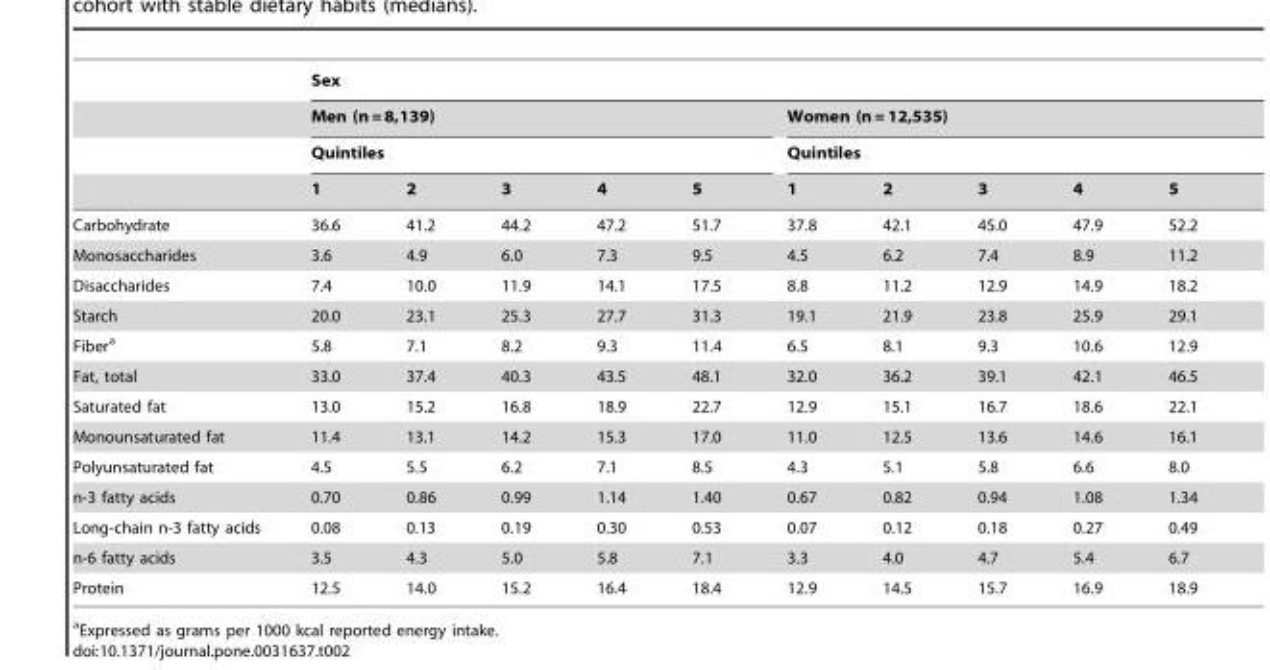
<table><thead><tr><td rowspan="4"></td><td colspan="10">Sex</td></tr><tr><td rowspan="2" colspan="5">Men (n = 8,139) Quintiles</td><td rowspan="2" colspan="5">Women (n = 12,535) Quintiles</td></tr><tr></tr><tr><td>1</td><td>2</td><td>3</td><td>4</td><td>5</td><td>1</td><td>2</td><td>3</td><td>4</td><td>5</td></tr></thead><tbody><tr><td>Carbohydrate</td><td>36.6</td><td>41.2</td><td>44.2</td><td>47.2</td><td>51.7</td><td>37.8</td><td>42.1</td><td>45.0</td><td>47.9</td><td>52.2</td></tr><tr><td>Monosaccharides</td><td>3.6</td><td>4.9</td><td>6.0</td><td>7.3</td><td>9.5</td><td>4.5</td><td>6.2</td><td>7.4</td><td>8.9</td><td>11.2</td></tr><tr><td>Disaccharides</td><td>7.4</td><td>10.0</td><td>11.9</td><td>14.1</td><td>17.5</td><td>8.8</td><td>11.2</td><td>12.9</td><td>14.9</td><td>18.2</td></tr><tr><td>Starch</td><td>20.0</td><td>23.1</td><td>25.3</td><td>27.7</td><td>31.3</td><td>19.1</td><td>21.9</td><td>23.8</td><td>25.9</td><td>29.1</td></tr><tr><td>Fiber<sup>a</sup></td><td>5.8</td><td>7.1</td><td>8.2</td><td>9.3</td><td>11.4</td><td>6.5</td><td>8.1</td><td>9.3</td><td>10.6</td><td>12.9</td></tr><tr><td>Fat, total</td><td>33.0</td><td>37.4</td><td>40.3</td><td>43.5</td><td>48.1</td><td>32.0</td><td>36.2</td><td>39.1</td><td>42.1</td><td>46.5</td></tr><tr><td>Saturated fat</td><td>13.0</td><td>15.2</td><td>16.8</td><td>18.9</td><td>22.7</td><td>12.9</td><td>15.1</td><td>16.7</td><td>18.6</td><td>22.1</td></tr><tr><td>Monounsaturated fat</td><td>11.4</td><td>13.1</td><td>14.2</td><td>15.3</td><td>17.0</td><td>11.0</td><td>12.5</td><td>13.6</td><td>14.6</td><td>16.1</td></tr><tr><td>Polyunsaturated fat</td><td>4.5</td><td>5.5</td><td>6.2</td><td>7.1</td><td>8.5</td><td>4.3</td><td>5.1</td><td>5.8</td><td>6.6</td><td>8.0</td></tr><tr><td>n-3 fatty acids</td><td>0.70</td><td>0.86</td><td>0.99</td><td>1.14</td><td>1.40</td><td>0.67</td><td>0.82</td><td>0.94</td><td>1.08</td><td>1.34</td></tr><tr><td>Long-chain n-3 fatty acids</td><td>0.08</td><td>0.13</td><td>0.19</td><td>0.30</td><td>0.53</td><td>0.07</td><td>0.12</td><td>0.18</td><td>0.27</td><td>0.49</td></tr><tr><td>n-6 fatty acids</td><td>3.5</td><td>4.3</td><td>5.0</td><td>5.8</td><td>7.1</td><td>3.3</td><td>4.0</td><td>4.7</td><td>5.4</td><td>6.7</td></tr><tr><td>Protein</td><td>12.5</td><td>14.0</td><td>15.2</td><td>16.4</td><td>18.4</td><td>12.9</td><td>14.5</td><td>15.7</td><td>16.9</td><td>18.9</td></tr></tbody></table>